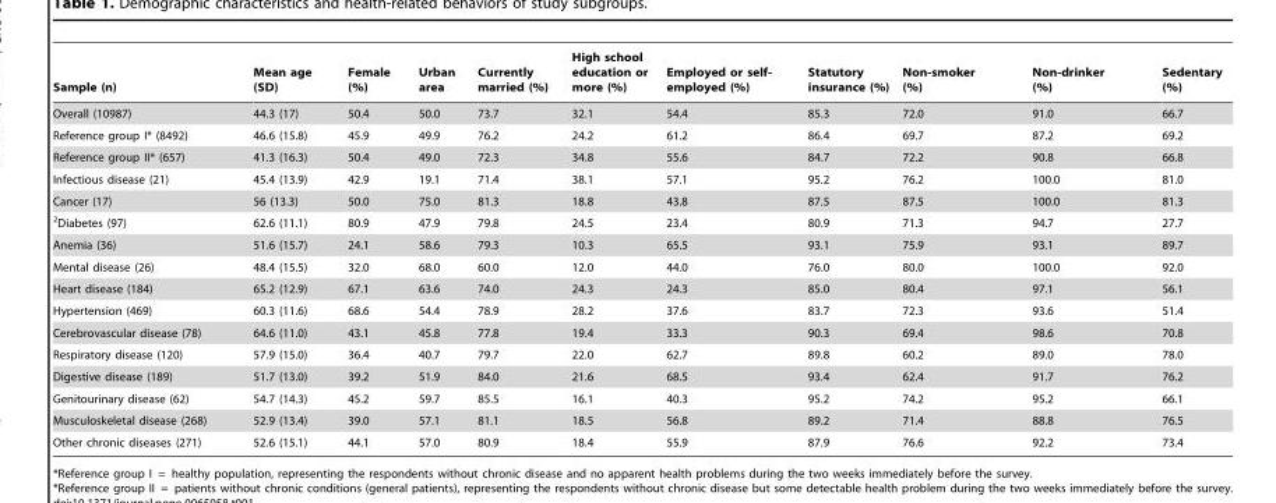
<table><thead><tr><td>Sample (n)</td><td>Mean age (SD)</td><td>Female (%)</td><td>Urban area</td><td>Currently married (%)</td><td>High school education or more (%)</td><td>Employed or self- employed (%)</td><td>Statutory insurance (%)</td><td>Non-smoker (%)</td><td>Non-drinker (%)</td><td>Sedentary (%)</td></tr></thead><tbody><tr><td>Overall (10987)</td><td>44.3 (17)</td><td>50.4</td><td>50.0</td><td>73.7</td><td>32.1</td><td>54.4</td><td>85.3</td><td>72.0</td><td>91.0</td><td>66.7</td></tr><tr><td>Reference group I* (8492)</td><td>46.6 (15.8)</td><td>45.9</td><td>49.9</td><td>76.2</td><td>24.2</td><td>61.2</td><td>86.4</td><td>69.7</td><td>87.2</td><td>69.2</td></tr><tr><td>Reference group II* (657)</td><td>41.3 (16.3)</td><td>50.4</td><td>49.0</td><td>72.3</td><td>34.8</td><td>55.6</td><td>84.7</td><td>72.2</td><td>90.8</td><td>66.8</td></tr><tr><td>Infectious disease (21)</td><td>45.4 (13.9)</td><td>42.9</td><td>19.1</td><td>71.4</td><td>38.1</td><td>57.1</td><td>95.2</td><td>76.2</td><td>100.0</td><td>81.0</td></tr><tr><td>Cancer (17)</td><td>56 (13.3)</td><td>50.0</td><td>75.0</td><td>81.3</td><td>18.8</td><td>43.8</td><td>87.5</td><td>87.5</td><td>100.0</td><td>81.3</td></tr><tr><td><sup>2</sup>Diabetes (97)</td><td>62.6 (11.1)</td><td>80.9</td><td>47.9</td><td>79.8</td><td>24.5</td><td>23.4</td><td>80.9</td><td>71.3</td><td>94.7</td><td>27.7</td></tr><tr><td>Anemia (36)</td><td>51.6 (15.7)</td><td>24.1</td><td>58.6</td><td>79.3</td><td>10.3</td><td>65.5</td><td>93.1</td><td>75.9</td><td>93.1</td><td>89.7</td></tr><tr><td>Mental disease (26)</td><td>48.4 (15.5)</td><td>32.0</td><td>68.0</td><td>60.0</td><td>12.0</td><td>44.0</td><td>76.0</td><td>80.0</td><td>100.0</td><td>92.0</td></tr><tr><td>Heart disease (184)</td><td>65.2 (12.9)</td><td>67.1</td><td>63.6</td><td>74.0</td><td>24.3</td><td>24.3</td><td>85.0</td><td>80.4</td><td>97.1</td><td>56.1</td></tr><tr><td>Hypertension (469)</td><td>60.3 (11.6)</td><td>68.6</td><td>54.4</td><td>78.9</td><td>28.2</td><td>37.6</td><td>83.7</td><td>72.3</td><td>93.6</td><td>51.4</td></tr><tr><td>Cerebrovascular disease (78)</td><td>64.6 (11.0)</td><td>43.1</td><td>45.8</td><td>77.8</td><td>19.4</td><td>33.3</td><td>90.3</td><td>69.4</td><td>98.6</td><td>70.8</td></tr><tr><td>Respiratory disease (120)</td><td>57.9 (15.0)</td><td>36.4</td><td>40.7</td><td>79.7</td><td>22.0</td><td>62.7</td><td>89.8</td><td>60.2</td><td>89.0</td><td>78.0</td></tr><tr><td>Digestive disease (189)</td><td>51.7 (13.0)</td><td>39.2</td><td>51.9</td><td>84.0</td><td>21.6</td><td>68.5</td><td>93.4</td><td>62.4</td><td>91.7</td><td>76.2</td></tr><tr><td>Genitourinary disease (62)</td><td>54.7 (14.3)</td><td>45.2</td><td>59.7</td><td>85.5</td><td>16.1</td><td>40.3</td><td>95.2</td><td>74.2</td><td>95.2</td><td>66.1</td></tr><tr><td>Musculoskeletal disease (268)</td><td>52.9 (13.4)</td><td>39.0</td><td>57.1</td><td>81.1</td><td>18.5</td><td>56.8</td><td>89.2</td><td>71.4</td><td>88.8</td><td>76.5</td></tr><tr><td>Other chronic diseases (271)</td><td>52.6 (15.1)</td><td>44.1</td><td>57.0</td><td>80.9</td><td>18.4</td><td>55.9</td><td>87.9</td><td>76.6</td><td>92.2</td><td>73.4</td></tr></tbody></table>